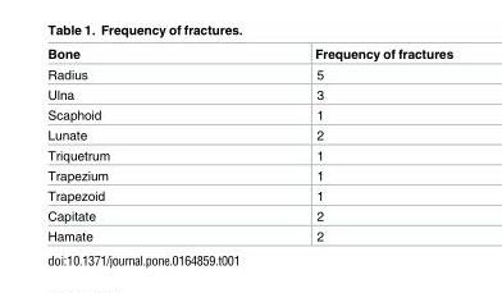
<table><thead><tr><td>Bone</td><td>Frequency of fractures</td></tr></thead><tbody><tr><td>Radius</td><td>5</td></tr><tr><td>Ulna</td><td>3</td></tr><tr><td>Scaphoid</td><td>1</td></tr><tr><td>Lunate</td><td>2</td></tr><tr><td>Triquetrum</td><td>1</td></tr><tr><td>Trapezium</td><td>1</td></tr><tr><td>Trapezoid</td><td>1</td></tr><tr><td>Capitate</td><td>2</td></tr><tr><td>Hamate</td><td>2</td></tr></tbody></table>